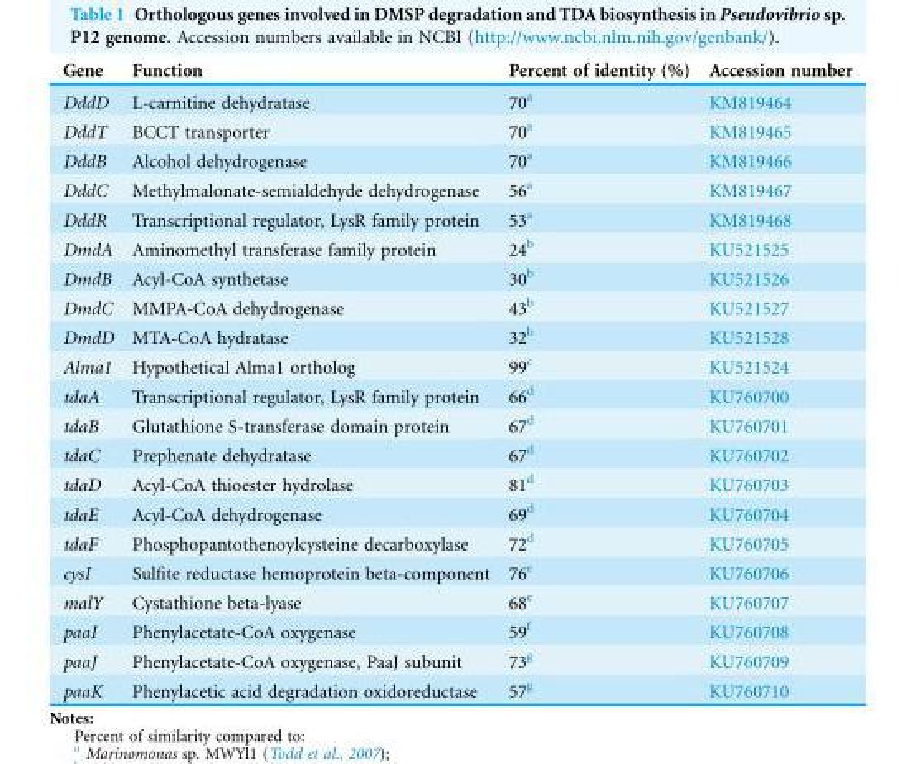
<table><thead><tr><td>Gene</td><td>Function</td><td>Percent of identity (%)</td><td>Accession number</td></tr></thead><tbody><tr><td>DddD</td><td>L-carnitine dehydratase</td><td>70<sup>a</sup></td><td>KM819464</td></tr><tr><td>DddT</td><td>BCCT transporter</td><td>70<sup>a</sup></td><td>KM819465</td></tr><tr><td>DddB</td><td>Alcohol dehydrogenase</td><td>70<sup>a</sup></td><td>KM819466</td></tr><tr><td>DddC</td><td>Methylmalonate-semialdehyde dehydrogenase</td><td>56<sup>a</sup></td><td>KM819467</td></tr><tr><td>DddR</td><td>Transcriptional regulator, LysR family protein</td><td>53<sup>a</sup></td><td>KM819468</td></tr><tr><td>DmdA</td><td>Aminomethyl transferase family protein</td><td>24<sup>b</sup></td><td>KU521525</td></tr><tr><td>DmdB</td><td>Acyl-CoA synthetase</td><td>30<sup>b</sup></td><td>KU521526</td></tr><tr><td>DmdC</td><td>MMPA-CoA dehydrogenase</td><td>43<sup>b</sup></td><td>KU521527</td></tr><tr><td>DmdD</td><td>MTA-CoA hydratase</td><td>32<sup>b</sup></td><td>KU521528</td></tr><tr><td>Alma1</td><td>Hypothetical Alma1 ortholog</td><td>99<sup>c</sup></td><td>KU521524</td></tr><tr><td>tdaA</td><td>Transcriptional regulator, LysR family protein</td><td>66<sup>d</sup></td><td>KU760700</td></tr><tr><td>tdaB</td><td>Glutathione S-transferase domain protein</td><td>67<sup>d</sup></td><td>KU760701</td></tr><tr><td>tdaC</td><td>Prephenate dehydratase</td><td>67<sup>d</sup></td><td>KU760702</td></tr><tr><td>tdaD</td><td>Acyl-CoA thioester hydrolase</td><td>81<sup>d</sup></td><td>KU760703</td></tr><tr><td>tdaE</td><td>Acyl-CoA dehydrogenase</td><td>69<sup>d</sup></td><td>KU760704</td></tr><tr><td>tdaF</td><td>Phosphopantothenoylcysteine decarboxylase</td><td>72<sup>d</sup></td><td>KU760705</td></tr><tr><td>cysI</td><td>Sulfite reductase hemoprotein beta-component</td><td>76<sup>e</sup></td><td>KU760706</td></tr><tr><td>malY</td><td>Cystathione beta-lyase</td><td>68<sup>e</sup></td><td>KU760707</td></tr><tr><td>paaI</td><td>Phenylacetate-CoA oxygenase</td><td>59<sup>f</sup></td><td>KU760708</td></tr><tr><td>paaJ</td><td>Phenylacetate-CoA oxygenase, PaaJ subunit</td><td>73<sup>g</sup></td><td>KU760709</td></tr><tr><td>paaK</td><td>Phenylacetic acid degradation oxidoreductase</td><td>57<sup>g</sup></td><td>KU760710</td></tr></tbody></table>